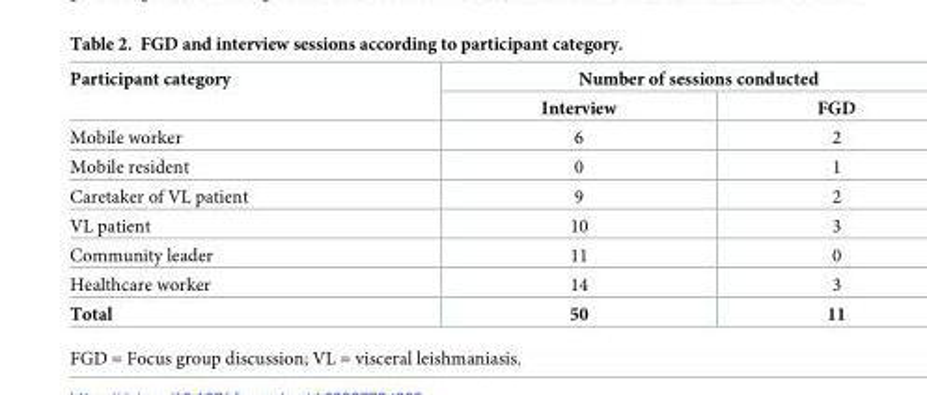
<table><thead><tr><td rowspan="2">Participant category</td><td colspan="2">Number of sessions conducted</td></tr><tr><td>Interview</td><td>FGD</td></tr></thead><tbody><tr><td>Mobile worker</td><td>6</td><td>2</td></tr><tr><td>Mobile resident</td><td>0</td><td>1</td></tr><tr><td>Caretaker of VL patient</td><td>9</td><td>2</td></tr><tr><td>VL patient</td><td>10</td><td>3</td></tr><tr><td>Community leader</td><td>11</td><td>0</td></tr><tr><td>Healthcare worker</td><td>14</td><td>3</td></tr><tr><td>Total</td><td>50</td><td>11</td></tr></tbody></table>